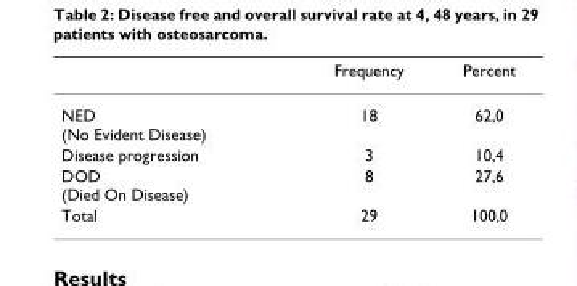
<table><thead><tr><td></td><td>Frequency</td><td>Percent</td></tr></thead><tbody><tr><td>NED (No Evident Disease)</td><td>18</td><td>62,0</td></tr><tr><td>Disease progression</td><td>3</td><td>10,4</td></tr><tr><td>DOD (Died On Disease)</td><td>8</td><td>27,6</td></tr><tr><td>Total</td><td>29</td><td>100,0</td></tr></tbody></table>